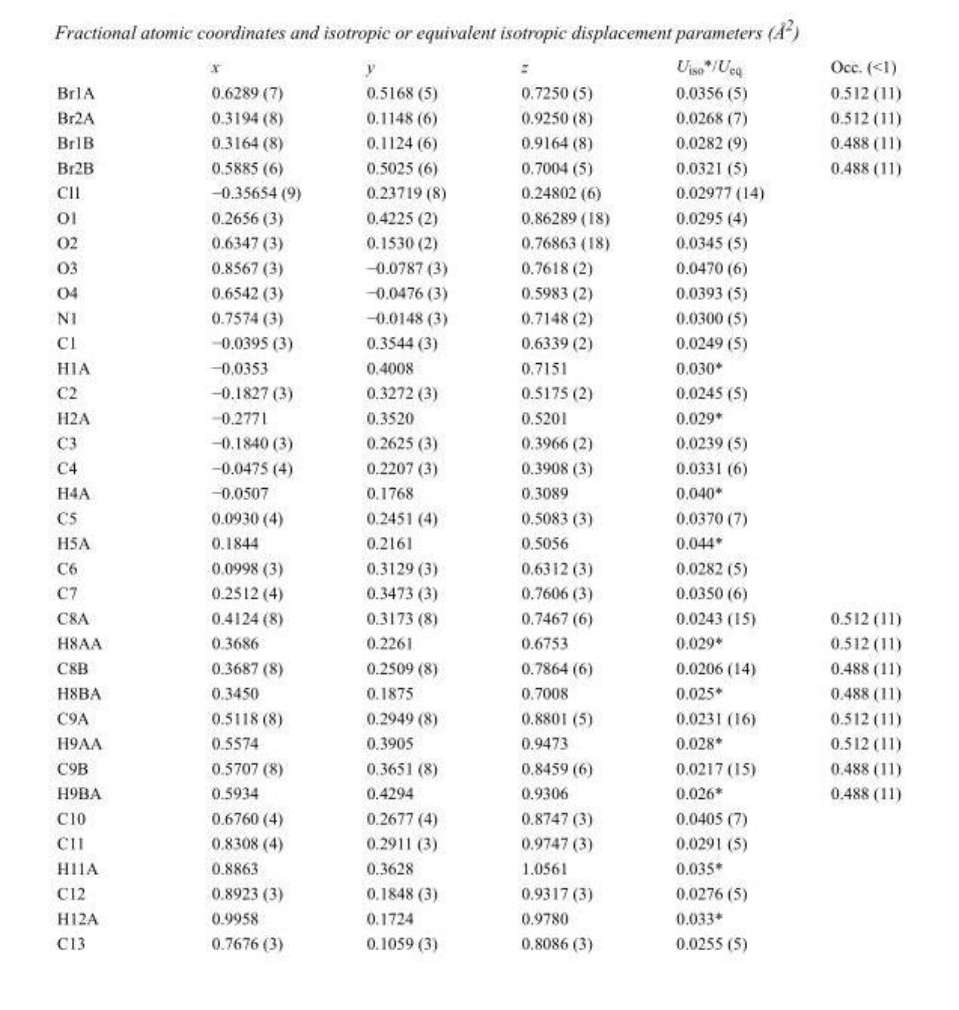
<table><thead><tr><td></td><td>x</td><td>y</td><td>z</td><td>U<sub>iso</sub>*/U<sub>eq</sub></td><td>Occ. (&lt;1)</td></tr></thead><tbody><tr><td>Br1A</td><td>0.6289 (7)</td><td>0.5168 (5)</td><td>0.7250 (5)</td><td>0.0356 (5)</td><td>0.512 (11)</td></tr><tr><td>Br2A</td><td>0.3194 (8)</td><td>0.1148 (6)</td><td>0.9250 (8)</td><td>0.0268 (7)</td><td>0.512 (11)</td></tr><tr><td>Br1B</td><td>0.3164 (8)</td><td>0.1124 (6)</td><td>0.9164 (8)</td><td>0.0282 (9)</td><td>0.488 (11)</td></tr><tr><td>Br2B</td><td>0.5885 (6)</td><td>0.5025 (6)</td><td>0.7004 (5)</td><td>0.0321 (5)</td><td>0.488 (11)</td></tr><tr><td>Cl1</td><td>−0.35654 (9)</td><td>0.23719 (8)</td><td>0.24802 (6)</td><td>0.02977 (14)</td><td></td></tr><tr><td>O1</td><td>0.2656 (3)</td><td>0.4225 (2)</td><td>0.86289 (18)</td><td>0.0295 (4)</td><td></td></tr><tr><td>O2</td><td>0.6347 (3)</td><td>0.1530 (2)</td><td>0.76863 (18)</td><td>0.0345 (5)</td><td></td></tr><tr><td>O3</td><td>0.8567 (3)</td><td>−0.0787 (3)</td><td>0.7618 (2)</td><td>0.0470 (6)</td><td></td></tr><tr><td>O4</td><td>0.6542 (3)</td><td>−0.0476 (3)</td><td>0.5983 (2)</td><td>0.0393 (5)</td><td></td></tr><tr><td>N1</td><td>0.7574 (3)</td><td>−0.0148 (3)</td><td>0.7148 (2)</td><td>0.0300 (5)</td><td></td></tr><tr><td>C1</td><td>−0.0395 (3)</td><td>0.3544 (3)</td><td>0.6339 (2)</td><td>0.0249 (5)</td><td></td></tr><tr><td>H1A</td><td>−0.0353</td><td>0.4008</td><td>0.7151</td><td>0.030*</td><td></td></tr><tr><td>C2</td><td>−0.1827 (3)</td><td>0.3272 (3)</td><td>0.5175 (2)</td><td>0.0245 (5)</td><td></td></tr><tr><td>H2A</td><td>−0.2771</td><td>0.3520</td><td>0.5201</td><td>0.029*</td><td></td></tr><tr><td>C3</td><td>−0.1840 (3)</td><td>0.2625 (3)</td><td>0.3966 (2)</td><td>0.0239 (5)</td><td></td></tr><tr><td>C4</td><td>−0.0475 (4)</td><td>0.2207 (3)</td><td>0.3908 (3)</td><td>0.0331 (6)</td><td></td></tr><tr><td>H4A</td><td>−0.0507</td><td>0.1768</td><td>0.3089</td><td>0.040*</td><td></td></tr><tr><td>C5</td><td>0.0930 (4)</td><td>0.2451 (4)</td><td>0.5083 (3)</td><td>0.0370 (7)</td><td></td></tr><tr><td>H5A</td><td>0.1844</td><td>0.2161</td><td>0.5056</td><td>0.044*</td><td></td></tr><tr><td>C6</td><td>0.0998 (3)</td><td>0.3129 (3)</td><td>0.6312 (3)</td><td>0.0282 (5)</td><td></td></tr><tr><td>C7</td><td>0.2512 (4)</td><td>0.3473 (3)</td><td>0.7606 (3)</td><td>0.0350 (6)</td><td></td></tr><tr><td>C8A</td><td>0.4124 (8)</td><td>0.3173 (8)</td><td>0.7467 (6)</td><td>0.0243 (15)</td><td>0.512 (11)</td></tr><tr><td>H8AA</td><td>0.3686</td><td>0.2261</td><td>0.6753</td><td>0.029*</td><td>0.512 (11)</td></tr><tr><td>C8B</td><td>0.3687 (8)</td><td>0.2509 (8)</td><td>0.7864 (6)</td><td>0.0206 (14)</td><td>0.488 (11)</td></tr><tr><td>H8BA</td><td>0.3450</td><td>0.1875</td><td>0.7008</td><td>0.025*</td><td>0.488 (11)</td></tr><tr><td>C9A</td><td>0.5118 (8)</td><td>0.2949 (8)</td><td>0.8801 (5)</td><td>0.0231 (16)</td><td>0.512 (11)</td></tr><tr><td>H9AA</td><td>0.5574</td><td>0.3905</td><td>0.9473</td><td>0.028*</td><td>0.512 (11)</td></tr><tr><td>C9B</td><td>0.5707 (8)</td><td>0.3651 (8)</td><td>0.8459 (6)</td><td>0.0217 (15)</td><td>0.488 (11)</td></tr><tr><td>H9BA</td><td>0.5934</td><td>0.4294</td><td>0.9306</td><td>0.026*</td><td>0.488 (11)</td></tr><tr><td>C10</td><td>0.6760 (4)</td><td>0.2677 (4)</td><td>0.8747 (3)</td><td>0.0405 (7)</td><td></td></tr><tr><td>C11</td><td>0.8308 (4)</td><td>0.2911 (3)</td><td>0.9747 (3)</td><td>0.0291 (5)</td><td></td></tr><tr><td>H11A</td><td>0.8863</td><td>0.3628</td><td>1.0561</td><td>0.035*</td><td></td></tr><tr><td>C12</td><td>0.8923 (3)</td><td>0.1848 (3)</td><td>0.9317 (3)</td><td>0.0276 (5)</td><td></td></tr><tr><td>H12A</td><td>0.9958</td><td>0.1724</td><td>0.9780</td><td>0.033*</td><td></td></tr><tr><td>C13</td><td>0.7676 (3)</td><td>0.1059 (3)</td><td>0.8086 (3)</td><td>0.0255 (5)</td><td></td></tr></tbody></table>